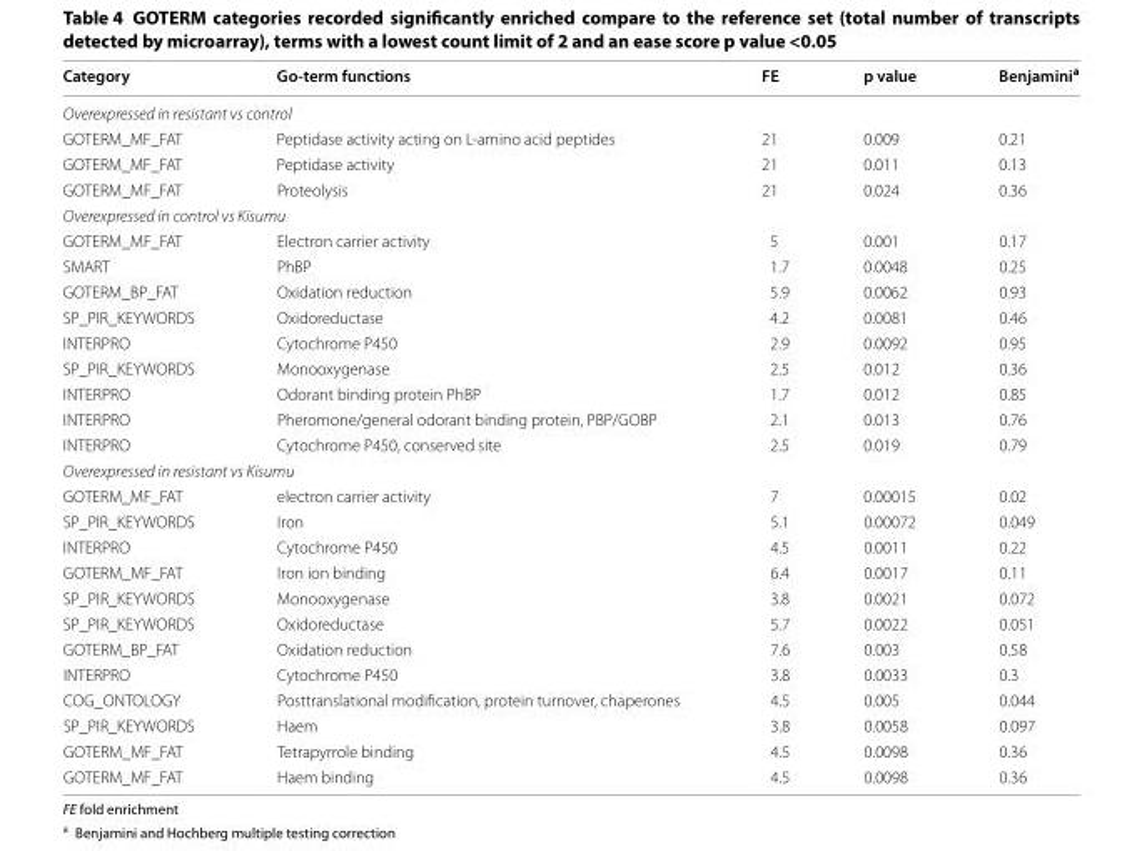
<table><thead><tr><td>Category</td><td>Go‑term functions</td><td>FE</td><td>p value</td><td>Benjamini<sup>a</sup></td></tr></thead><tbody><tr><td colspan="5">Overexpressed in resistant vs control</td></tr><tr><td>GOTERM_MF_FAT</td><td>Peptidase activity acting on L‑amino acid peptides</td><td>21</td><td>0.009</td><td>0.21</td></tr><tr><td>GOTERM_MF_FAT</td><td>Peptidase activity</td><td>21</td><td>0.011</td><td>0.13</td></tr><tr><td>GOTERM_MF_FAT</td><td>Proteolysis</td><td>21</td><td>0.024</td><td>0.36</td></tr><tr><td colspan="5">Overexpressed in control vs Kisumu</td></tr><tr><td>GOTERM_MF_FAT</td><td>Electron carrier activity</td><td>5</td><td>0.001</td><td>0.17</td></tr><tr><td>SMART</td><td>PhBP</td><td>1.7</td><td>0.0048</td><td>0.25</td></tr><tr><td>GOTERM_BP_FAT</td><td>Oxidation reduction</td><td>5.9</td><td>0.0062</td><td>0.93</td></tr><tr><td>SP_PIR_KEYWORDS</td><td>Oxidoreductase</td><td>4.2</td><td>0.0081</td><td>0.46</td></tr><tr><td>INTERPRO</td><td>Cytochrome P450</td><td>2.9</td><td>0.0092</td><td>0.95</td></tr><tr><td>SP_PIR_KEYWORDS</td><td>Monooxygenase</td><td>2.5</td><td>0.012</td><td>0.36</td></tr><tr><td>INTERPRO</td><td>Odorant binding protein PhBP</td><td>1.7</td><td>0.012</td><td>0.85</td></tr><tr><td>INTERPRO</td><td>Pheromone/general odorant binding protein, PBP/GOBP</td><td>2.1</td><td>0.013</td><td>0.76</td></tr><tr><td>INTERPRO</td><td>Cytochrome P450, conserved site</td><td>2.5</td><td>0.019</td><td>0.79</td></tr><tr><td colspan="5">Overexpressed in resistant vs Kisumu</td></tr><tr><td>GOTERM_MF_FAT</td><td>electron carrier activity</td><td>7</td><td>0.00015</td><td>0.02</td></tr><tr><td>SP_PIR_KEYWORDS</td><td>Iron</td><td>5.1</td><td>0.00072</td><td>0.049</td></tr><tr><td>INTERPRO</td><td>Cytochrome P450</td><td>4.5</td><td>0.0011</td><td>0.22</td></tr><tr><td>GOTERM_MF_FAT</td><td>Iron ion binding</td><td>6.4</td><td>0.0017</td><td>0.11</td></tr><tr><td>SP_PIR_KEYWORDS</td><td>Monooxygenase</td><td>3.8</td><td>0.0021</td><td>0.072</td></tr><tr><td>SP_PIR_KEYWORDS</td><td>Oxidoreductase</td><td>5.7</td><td>0.0022</td><td>0.051</td></tr><tr><td>GOTERM_BP_FAT</td><td>Oxidation reduction</td><td>7.6</td><td>0.003</td><td>0.58</td></tr><tr><td>INTERPRO</td><td>Cytochrome P450</td><td>3.8</td><td>0.0033</td><td>0.3</td></tr><tr><td>COG_ONTOLOGY</td><td>Posttranslational modification, protein turnover, chaperones</td><td>4.5</td><td>0.005</td><td>0.044</td></tr><tr><td>SP_PIR_KEYWORDS</td><td>Haem</td><td>3.8</td><td>0.0058</td><td>0.097</td></tr><tr><td>GOTERM_MF_FAT</td><td>Tetrapyrrole binding</td><td>4.5</td><td>0.0098</td><td>0.36</td></tr><tr><td>GOTERM_MF_FAT</td><td>Haem binding</td><td>4.5</td><td>0.0098</td><td>0.36</td></tr></tbody></table>